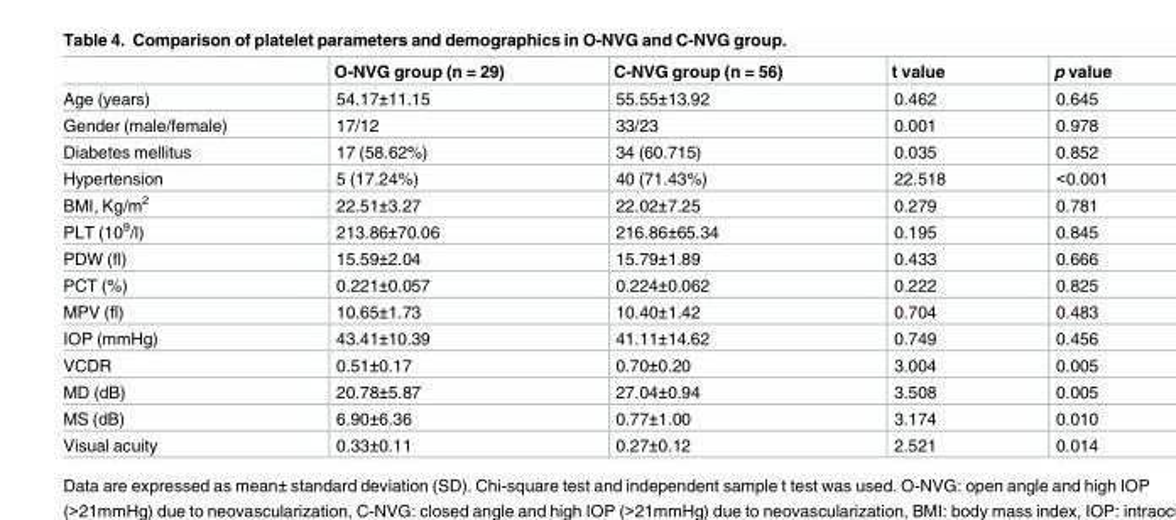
<table><thead><tr><td></td><td>O-NVG group (n = 29)</td><td>C-NVG group (n = 56)</td><td>t value</td><td>p value</td></tr></thead><tbody><tr><td>Age (years)</td><td>54.17±11.15</td><td>55.55±13.92</td><td>0.462</td><td>0.645</td></tr><tr><td>Gender (male/female)</td><td>17/12</td><td>33/23</td><td>0.001</td><td>0.978</td></tr><tr><td>Diabetes mellitus</td><td>17 (58.62%)</td><td>34 (60.715)</td><td>0.035</td><td>0.852</td></tr><tr><td>Hypertension</td><td>5 (17.24%)</td><td>40 (71.43%)</td><td>22.518</td><td>&lt;0.001</td></tr><tr><td>BMI, Kg/m<sup>2</sup></td><td>22.51±3.27</td><td>22.02±7.25</td><td>0.279</td><td>0.781</td></tr><tr><td>PLT (10<sup>9</sup>/l)</td><td>213.86±70.06</td><td>216.86±65.34</td><td>0.195</td><td>0.845</td></tr><tr><td>PDW (fl)</td><td>15.59±2.04</td><td>15.79±1.89</td><td>0.433</td><td>0.666</td></tr><tr><td>PCT (%)</td><td>0.221±0.057</td><td>0.224±0.062</td><td>0.222</td><td>0.825</td></tr><tr><td>MPV (fl)</td><td>10.65±1.73</td><td>10.40±1.42</td><td>0.704</td><td>0.483</td></tr><tr><td>IOP (mmHg)</td><td>43.41±10.39</td><td>41.11±14.62</td><td>0.749</td><td>0.456</td></tr><tr><td>VCDR</td><td>0.51±0.17</td><td>0.70±0.20</td><td>3.004</td><td>0.005</td></tr><tr><td>MD (dB)</td><td>20.78±5.87</td><td>27.04±0.94</td><td>3.508</td><td>0.005</td></tr><tr><td>MS (dB)</td><td>6.90±6.36</td><td>0.77±1.00</td><td>3.174</td><td>0.010</td></tr><tr><td>Visual acuity</td><td>0.33±0.11</td><td>0.27±0.12</td><td>2.521</td><td>0.014</td></tr></tbody></table>